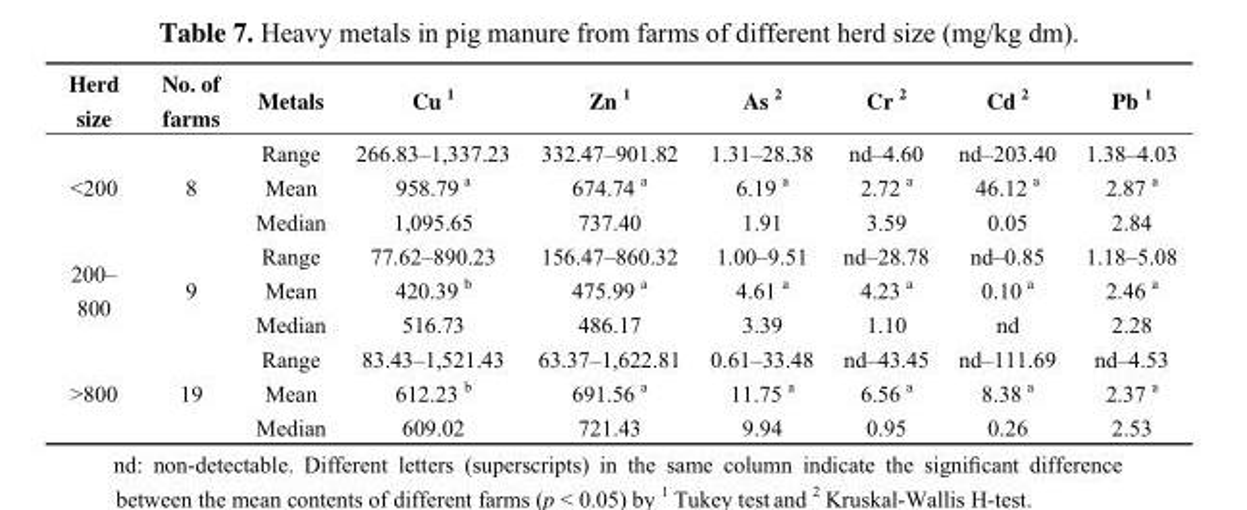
<table><thead><tr><td>Herd size</td><td>No. of farms</td><td>Metals</td><td>Cu <sup>1</sup></td><td>Zn <sup>1</sup></td><td>As <sup>2</sup></td><td>Cr <sup>2</sup></td><td>Cd <sup>2</sup></td><td>Pb <sup>1</sup></td></tr></thead><tbody><tr><td rowspan="3">&lt;200</td><td rowspan="3">8</td><td>Range</td><td>266.83–1,337.23</td><td>332.47–901.82</td><td>1.31–28.38</td><td>nd–4.60</td><td>nd–203.40</td><td>1.38–4.03</td></tr><tr><td>Mean</td><td>958.79 <sup>a</sup></td><td>674.74 <sup>a</sup></td><td>6.19 <sup>a</sup></td><td>2.72 <sup>a</sup></td><td>46.12 <sup>a</sup></td><td>2.87 <sup>a</sup></td></tr><tr><td>Median</td><td>1,095.65</td><td>737.40</td><td>1.91</td><td>3.59</td><td>0.05</td><td>2.84</td></tr><tr><td rowspan="3">200– 800</td><td rowspan="3">9</td><td>Range</td><td>77.62–890.23</td><td>156.47–860.32</td><td>1.00–9.51</td><td>nd–28.78</td><td>nd–0.85</td><td>1.18–5.08</td></tr><tr><td>Mean</td><td>420.39 <sup>b</sup></td><td>475.99 <sup>a</sup></td><td>4.61 <sup>a</sup></td><td>4.23 <sup>a</sup></td><td>0.10 <sup>a</sup></td><td>2.46 <sup>a</sup></td></tr><tr><td>Median</td><td>516.73</td><td>486.17</td><td>3.39</td><td>1.10</td><td>nd</td><td>2.28</td></tr><tr><td rowspan="3">&gt;800</td><td rowspan="3">19</td><td>Range</td><td>83.43–1,521.43</td><td>63.37–1,622.81</td><td>0.61–33.48</td><td>nd–43.45</td><td>nd–111.69</td><td>nd–4.53</td></tr><tr><td>Mean</td><td>612.23 <sup>b</sup></td><td>691.56 <sup>a</sup></td><td>11.75 <sup>a</sup></td><td>6.56 <sup>a</sup></td><td>8.38 <sup>a</sup></td><td>2.37 <sup>a</sup></td></tr><tr><td>Median</td><td>609.02</td><td>721.43</td><td>9.94</td><td>0.95</td><td>0.26</td><td>2.53</td></tr></tbody></table>